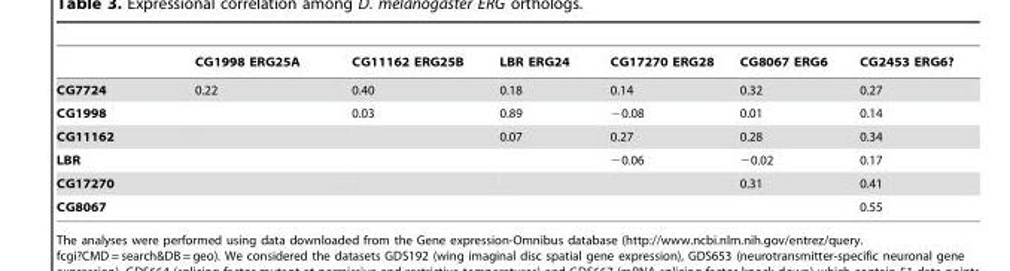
<table><thead><tr><td></td><td>CG1998 ERG25A</td><td>CG11162 ERG25B</td><td>LBR ERG24</td><td>CG17270 ERG28</td><td>CG8067 ERG6</td><td>CG2453 ERG6?</td></tr></thead><tbody><tr><td>CG7724</td><td>0.22</td><td>0.40</td><td>0.18</td><td>0.14</td><td>0.32</td><td>0.27</td></tr><tr><td>CG1998</td><td></td><td>0.03</td><td>0.89</td><td>−0.08</td><td>0.01</td><td>0.14</td></tr><tr><td>CG11162</td><td></td><td></td><td>0.07</td><td>0.27</td><td>0.28</td><td>0.34</td></tr><tr><td>LBR</td><td></td><td></td><td></td><td>−0.06</td><td>−0.02</td><td>0.17</td></tr><tr><td>CG17270</td><td></td><td></td><td></td><td></td><td>0.31</td><td>0.41</td></tr><tr><td>CG8067</td><td></td><td></td><td></td><td></td><td></td><td>0.55</td></tr></tbody></table>